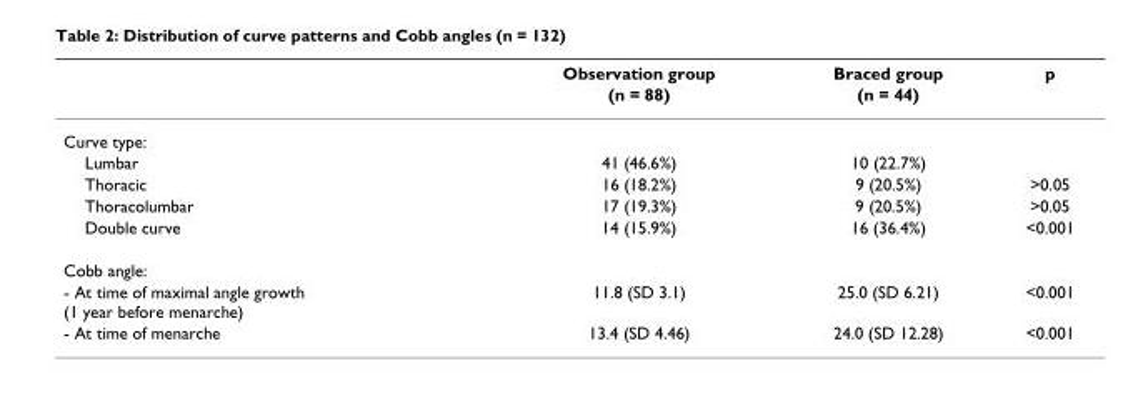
<table><thead><tr><td rowspan="2"></td><td rowspan="2">Observation group (n = 88)</td><td rowspan="2">Braced group (n = 44)</td><td rowspan="2">p</td></tr><tr></tr></thead><tbody><tr><td colspan="4">Curve type:</td></tr><tr><td>Lumbar</td><td>41 (46.6%)</td><td>10 (22.7%)</td><td></td></tr><tr><td>Thoracic</td><td>16 (18.2%)</td><td>9 (20.5%)</td><td>&gt;0.05</td></tr><tr><td>Thoracolumbar</td><td>17 (19.3%)</td><td>9 (20.5%)</td><td>&gt;0.05</td></tr><tr><td>Double curve</td><td>14 (15.9%)</td><td>16 (36.4%)</td><td>&lt;0.001</td></tr><tr><td colspan="4">Cobb angle:</td></tr><tr><td>- At time of maximal angle growth (1 year before menarche)</td><td>11.8 (SD 3.1)</td><td>25.0 (SD 6.21)</td><td>&lt;0.001</td></tr><tr><td>- At time of menarche</td><td>13.4 (SD 4.46)</td><td>24.0 (SD 12.28)</td><td>&lt;0.001</td></tr></tbody></table>